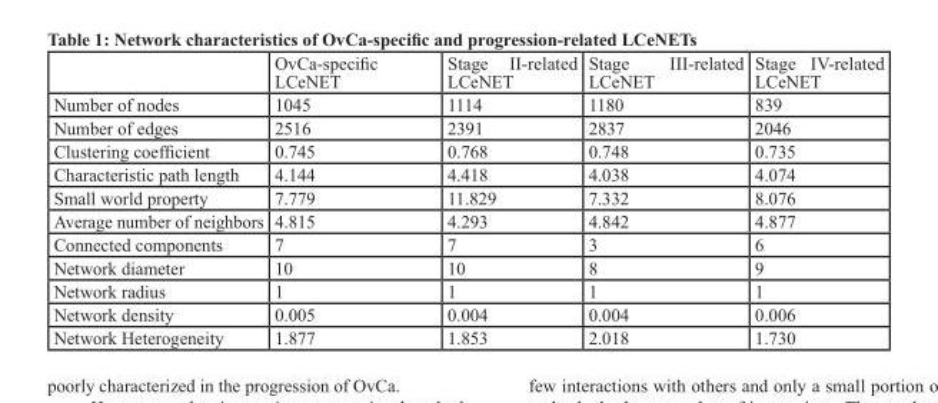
<table><thead><tr><td></td><td>OvCa-specific LCeNET</td><td>Stage II-related LCeNET</td><td>Stage III-related LCeNET</td><td>Stage IV-related LCeNET</td></tr></thead><tbody><tr><td>Number of nodes</td><td>1045</td><td>1114</td><td>1180</td><td>839</td></tr><tr><td>Number of edges</td><td>2516</td><td>2391</td><td>2837</td><td>2046</td></tr><tr><td>Clustering coefficient</td><td>0.745</td><td>0.768</td><td>0.748</td><td>0.735</td></tr><tr><td>Characteristic path length</td><td>4.144</td><td>4.418</td><td>4.038</td><td>4.074</td></tr><tr><td>Small world property</td><td>7.779</td><td>11.829</td><td>7.332</td><td>8.076</td></tr><tr><td>Average number of neighbors</td><td>4.815</td><td>4.293</td><td>4.842</td><td>4.877</td></tr><tr><td>Connected components</td><td>7</td><td>7</td><td>3</td><td>6</td></tr><tr><td>Network diameter</td><td>10</td><td>10</td><td>8</td><td>9</td></tr><tr><td>Network radius</td><td>1</td><td>1</td><td>1</td><td>1</td></tr><tr><td>Network density</td><td>0.005</td><td>0.004</td><td>0.004</td><td>0.006</td></tr><tr><td>Network Heterogeneity</td><td>1.877</td><td>1.853</td><td>2.018</td><td>1.730</td></tr></tbody></table>